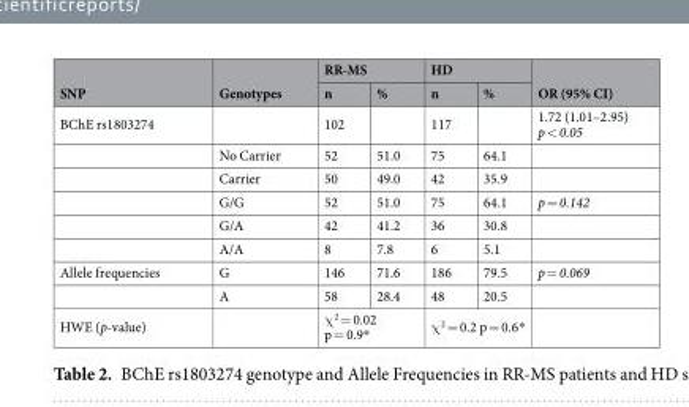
<table><thead><tr><td rowspan="2">SNP</td><td rowspan="2">Genotypes</td><td colspan="2">RR-MS</td><td colspan="2">HD</td><td rowspan="2">OR (95% CI)</td></tr><tr><td>n</td><td>%</td><td>n</td><td>%</td></tr></thead><tbody><tr><td rowspan="6">BChE rs1803274</td><td></td><td>102</td><td></td><td>117</td><td></td><td>1.72 (1.01–2.95) p &lt; 0.05</td></tr><tr><td>No Carrier</td><td>52</td><td>51.0</td><td>75</td><td>64.1</td><td></td></tr><tr><td>Carrier</td><td>50</td><td>49.0</td><td>42</td><td>35.9</td><td></td></tr><tr><td>G/G</td><td>52</td><td>51.0</td><td>75</td><td>64.1</td><td>p = 0.142</td></tr><tr><td>G/A</td><td>42</td><td>41.2</td><td>36</td><td>30.8</td><td></td></tr><tr><td>A/A</td><td>8</td><td>7.8</td><td>6</td><td>5.1</td><td></td></tr><tr><td rowspan="2">Allele frequencies</td><td>G</td><td>146</td><td>71.6</td><td>186</td><td>79.5</td><td>p = 0.069</td></tr><tr><td>A</td><td>58</td><td>28.4</td><td>48</td><td>20.5</td><td></td></tr><tr><td>HWE (p-value)</td><td></td><td colspan="2">χ<sup>2</sup> = 0.02 p = 0.9*</td><td colspan="2">χ<sup>2</sup> = 0.2 p = 0.6*</td><td></td></tr></tbody></table>